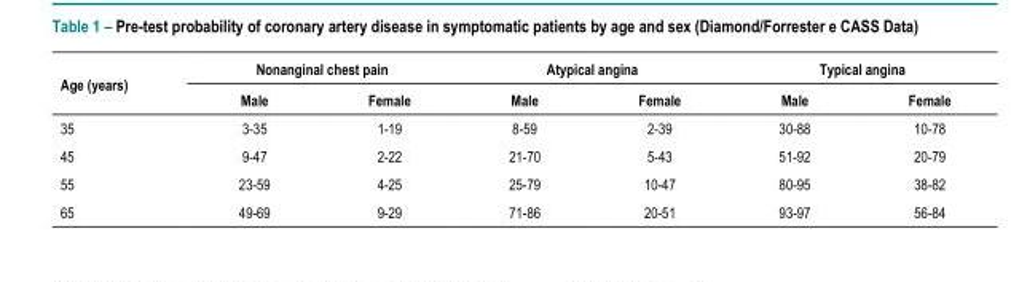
<table><thead><tr><td rowspan="2">Age (years)</td><td colspan="2">Nonanginal chest pain</td><td colspan="2">Atypical angina</td><td colspan="2">Typical angina</td></tr><tr><td>Male</td><td>Female</td><td>Male</td><td>Female</td><td>Male</td><td>Female</td></tr></thead><tbody><tr><td>35</td><td>3-35</td><td>1-19</td><td>8-59</td><td>2-39</td><td>30-88</td><td>10-78</td></tr><tr><td>45</td><td>9-47</td><td>2-22</td><td>21-70</td><td>5-43</td><td>51-92</td><td>20-79</td></tr><tr><td>55</td><td>23-59</td><td>4-25</td><td>25-79</td><td>10-47</td><td>80-95</td><td>38-82</td></tr><tr><td>65</td><td>49-69</td><td>9-29</td><td>71-86</td><td>20-51</td><td>93-97</td><td>56-84</td></tr></tbody></table>